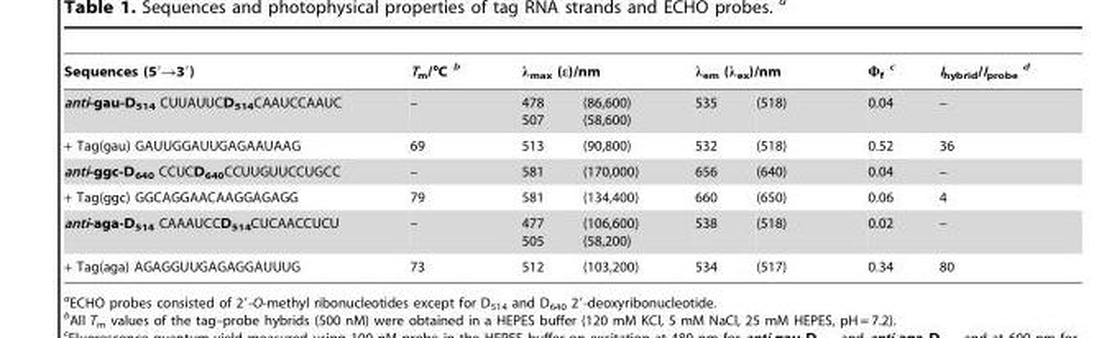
<table><thead><tr><td rowspan="2">Sequences (5′→3′) anti-gau-D<sub>514</sub> CUUAUUCD<sub>514</sub>CAAUCCAAUC</td><td rowspan="2">T<sub>m</sub>/°C b –</td><td colspan="2">λ<sub>max</sub> (ε)/nm</td><td colspan="2">λ<sub>em</sub> (λ<sub>ex</sub>)/nm</td><td rowspan="2">Φ<sub>f</sub> c 0.04</td><td rowspan="2">I<sub>hybrid</sub>/I<sub>probe</sub> d –</td></tr><tr><td>478 507</td><td>(86,600) (58,600)</td><td>535</td><td>(518)</td></tr></thead><tbody><tr><td>+ Tag(gau) GAUUGGAUUGAGAAUAAG</td><td>69</td><td>513</td><td>(90,800)</td><td>532</td><td>(518)</td><td>0.52</td><td>36</td></tr><tr><td>anti-ggc-D<sub>640</sub> CCUCD<sub>640</sub>CCUUGUUCCUGCC</td><td>–</td><td>581</td><td>(170,000)</td><td>656</td><td>(640)</td><td>0.04</td><td>–</td></tr><tr><td>+ Tag(ggc) GGCAGGAACAAGGAGAGG</td><td>79</td><td>581</td><td>(134,400)</td><td>660</td><td>(650)</td><td>0.06</td><td>4</td></tr><tr><td>anti-aga-D<sub>514</sub> CAAAUCCD<sub>514</sub>CUCAACCUCU</td><td>–</td><td>477 505</td><td>(106,600) (58,200)</td><td>538</td><td>(518)</td><td>0.02</td><td>–</td></tr><tr><td>+ Tag(aga) AGAGGUUGAGAGGAUUUG</td><td>73</td><td>512</td><td>(103,200)</td><td>534</td><td>(517)</td><td>0.34</td><td>80</td></tr></tbody></table>